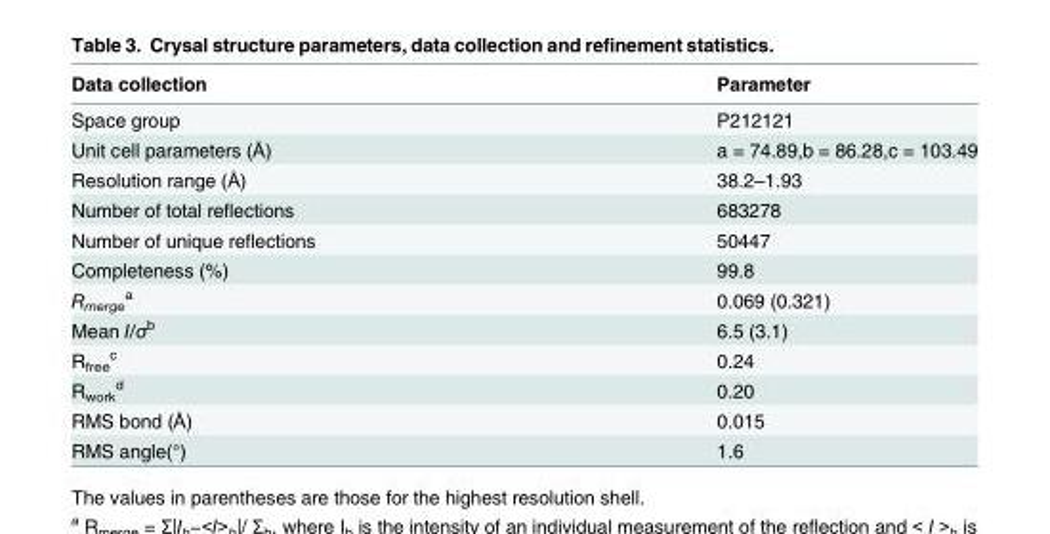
<table><thead><tr><td>Data collection</td><td>Parameter</td></tr></thead><tbody><tr><td>Space group</td><td>P212121</td></tr><tr><td>Unit cell parameters (Å)</td><td>a = 74.89,b = 86.28,c = 103.49</td></tr><tr><td>Resolution range (Å)</td><td>38.2–1.93</td></tr><tr><td>Number of total reflections</td><td>683278</td></tr><tr><td>Number of unique reflections</td><td>50447</td></tr><tr><td>Completeness (%)</td><td>99.8</td></tr><tr><td>R<sub>merge</sub> <sup>a</sup></td><td>0.069 (0.321)</td></tr><tr><td>Mean I/σ<sup>b</sup></td><td>6.5 (3.1)</td></tr><tr><td>R<sub>free</sub> <sup>c</sup></td><td>0.24</td></tr><tr><td>R<sub>work</sub> <sup>d</sup></td><td>0.20</td></tr><tr><td>RMS bond (Å)</td><td>0.015</td></tr><tr><td>RMS angle(°)</td><td>1.6</td></tr></tbody></table>